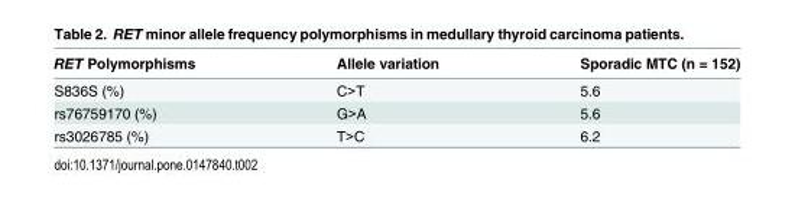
<table><thead><tr><td>RET Polymorphisms</td><td>Allele variation</td><td>Sporadic MTC (n = 152)</td></tr></thead><tbody><tr><td>S836S (%)</td><td>C&gt;T</td><td>5.6</td></tr><tr><td>rs76759170 (%)</td><td>G&gt;A</td><td>5.6</td></tr><tr><td>rs3026785 (%)</td><td>T&gt;C</td><td>6.2</td></tr></tbody></table>